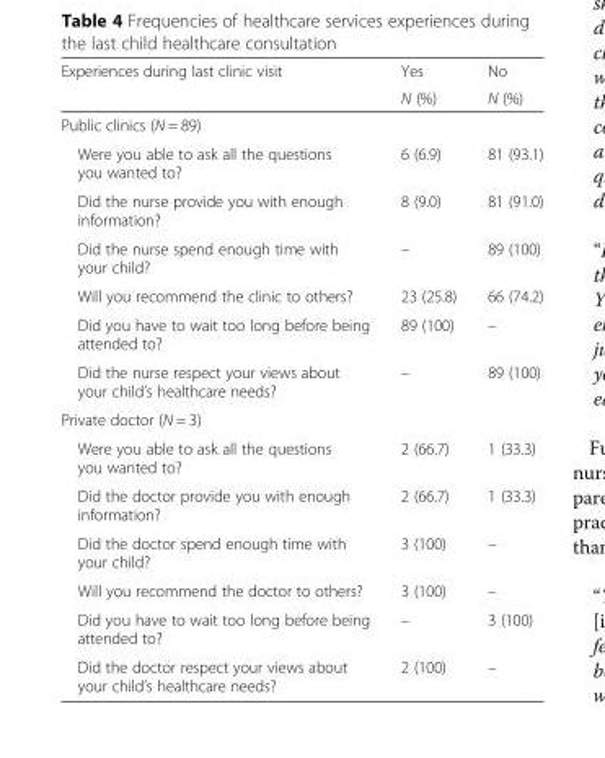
<table><thead><tr><td rowspan="2">Experiences during last clinic visit</td><td rowspan="2">Yes N (%)</td><td rowspan="2">No N (%)</td></tr><tr></tr></thead><tbody><tr><td colspan="3">Public clinics (N = 89)</td></tr><tr><td>Were you able to ask all the questions you wanted to?</td><td>6 (6.9)</td><td>81 (93.1)</td></tr><tr><td>Did the nurse provide you with enough information?</td><td>8 (9.0)</td><td>81 (91.0)</td></tr><tr><td>Did the nurse spend enough time with your child?</td><td>–</td><td>89 (100)</td></tr><tr><td>Will you recommend the clinic to others?</td><td>23 (25.8)</td><td>66 (74.2)</td></tr><tr><td>Did you have to wait too long before being attended to?</td><td>89 (100)</td><td>–</td></tr><tr><td>Did the nurse respect your views about your child’s healthcare needs?</td><td>–</td><td>89 (100)</td></tr><tr><td colspan="3">Private doctor (N = 3)</td></tr><tr><td>Were you able to ask all the questions you wanted to?</td><td>2 (66.7)</td><td>1 (33.3)</td></tr><tr><td>Did the doctor provide you with enough information?</td><td>2 (66.7)</td><td>1 (33.3)</td></tr><tr><td>Did the doctor spend enough time with your child?</td><td>3 (100)</td><td>–</td></tr><tr><td>Will you recommend the doctor to others?</td><td>3 (100)</td><td>–</td></tr><tr><td>Did you have to wait too long before being attended to?</td><td>–</td><td>3 (100)</td></tr><tr><td>Did the doctor respect your views about your child’s healthcare needs?</td><td>2 (100)</td><td>–</td></tr></tbody></table>